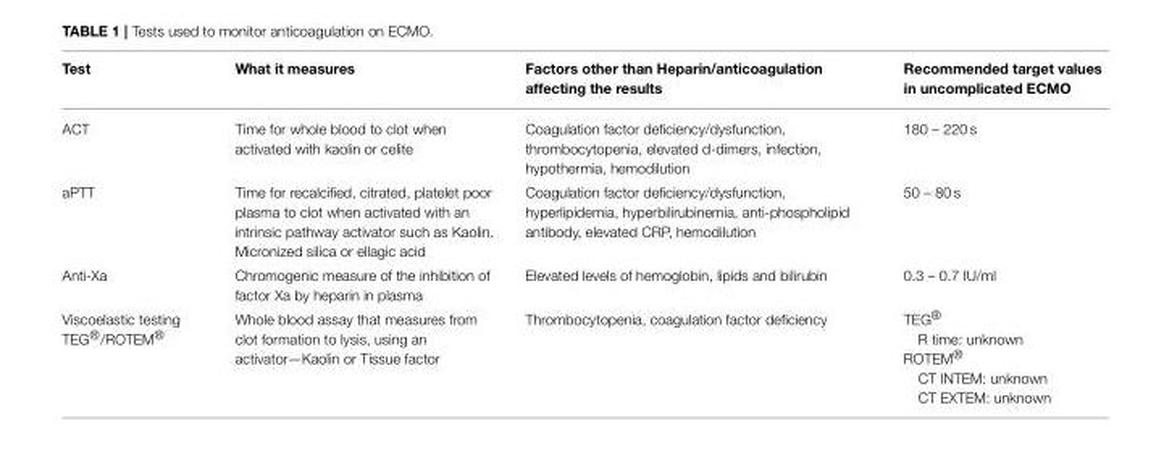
<table><thead><tr><td>Test</td><td>What it measures</td><td>Factors other than Heparin/anticoagulation affecting the results</td><td>Recommended target values in uncomplicated ECMO</td></tr></thead><tbody><tr><td>ACT</td><td>Time for whole blood to clot when activated with kaolin or celite</td><td>Coagulation factor deficiency/dysfunction, thrombocytopenia, elevated d-dimers, infection, hypothermia, hemodilution</td><td>180 – 220 s</td></tr><tr><td>aPTT</td><td>Time for recalcified, citrated, platelet poor plasma to clot when activated with an intrinsic pathway activator such as Kaolin. Micronized silica or ellagic acid</td><td>Coagulation factor deficiency/dysfunction, hyperlipidemia, hyperbilirubinemia, anti-phospholipid antibody, elevated CRP, hemodilution</td><td>50 – 80 s</td></tr><tr><td>Anti-Xa</td><td>Chromogenic measure of the inhibition of factor Xa by heparin in plasma</td><td>Elevated levels of hemoglobin, lipids and bilirubin</td><td>0.3 – 0.7 IU/ml</td></tr><tr><td>Viscoelastic testing TEG®/ROTEM®</td><td>Whole blood assay that measures from clot formation to lysis, using an activator—Kaolin or Tissue factor</td><td>Thrombocytopenia, coagulation factor deficiency</td><td>TEG® R time: unknown ROTEM® CT INTEM: unknown CT EXTEM: unknown</td></tr></tbody></table>